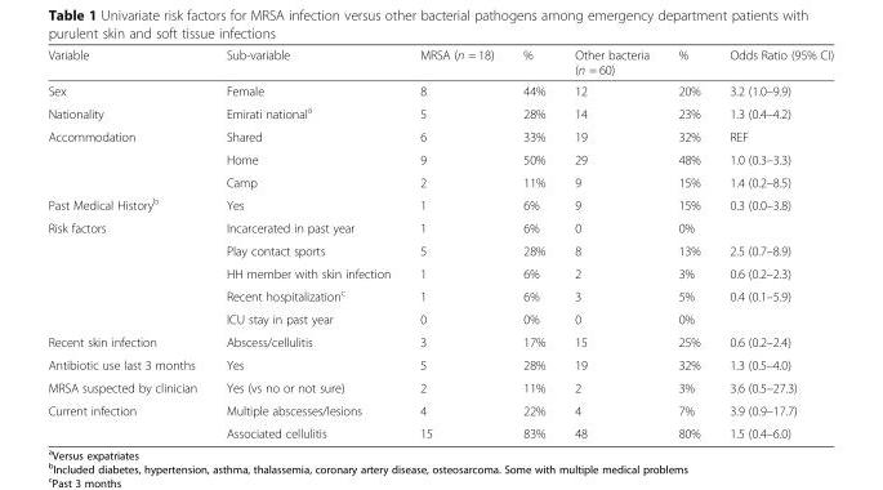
<table><thead><tr><td>Variable</td><td>Sub-variable</td><td>MRSA (n = 18)</td><td>%</td><td>Other bacteria (n = 60)</td><td>%</td><td>Odds Ratio (95% CI)</td></tr></thead><tbody><tr><td>Sex</td><td>Female</td><td>8</td><td>44%</td><td>12</td><td>20%</td><td>3.2 (1.0–9.9)</td></tr><tr><td>Nationality</td><td>Emirati national<sup>a</sup></td><td>5</td><td>28%</td><td>14</td><td>23%</td><td>1.3 (0.4–4.2)</td></tr><tr><td rowspan="3">Accommodation</td><td>Shared</td><td>6</td><td>33%</td><td>19</td><td>32%</td><td>REF</td></tr><tr><td>Home</td><td>9</td><td>50%</td><td>29</td><td>48%</td><td>1.0 (0.3–3.3)</td></tr><tr><td>Camp</td><td>2</td><td>11%</td><td>9</td><td>15%</td><td>1.4 (0.2–8.5)</td></tr><tr><td>Past Medical History<sup>b</sup></td><td>Yes</td><td>1</td><td>6%</td><td>9</td><td>15%</td><td>0.3 (0.0–3.8)</td></tr><tr><td rowspan="5">Risk factors</td><td>Incarcerated in past year</td><td>1</td><td>6%</td><td>0</td><td>0%</td><td></td></tr><tr><td>Play contact sports</td><td>5</td><td>28%</td><td>8</td><td>13%</td><td>2.5 (0.7–8.9)</td></tr><tr><td>HH member with skin infection</td><td>1</td><td>6%</td><td>2</td><td>3%</td><td>0.6 (0.2–2.3)</td></tr><tr><td>Recent hospitalization<sup>c</sup></td><td>1</td><td>6%</td><td>3</td><td>5%</td><td>0.4 (0.1–5.9)</td></tr><tr><td>ICU stay in past year</td><td>0</td><td>0%</td><td>0</td><td>0%</td><td></td></tr><tr><td>Recent skin infection</td><td>Abscess/cellulitis</td><td>3</td><td>17%</td><td>15</td><td>25%</td><td>0.6 (0.2–2.4)</td></tr><tr><td>Antibiotic use last 3 months</td><td>Yes</td><td>5</td><td>28%</td><td>19</td><td>32%</td><td>1.3 (0.5–4.0)</td></tr><tr><td>MRSA suspected by clinician</td><td>Yes (vs no or not sure)</td><td>2</td><td>11%</td><td>2</td><td>3%</td><td>3.6 (0.5–27.3)</td></tr><tr><td rowspan="2">Current infection</td><td>Multiple abscesses/lesions</td><td>4</td><td>22%</td><td>4</td><td>7%</td><td>3.9 (0.9–17.7)</td></tr><tr><td>Associated cellulitis</td><td>15</td><td>83%</td><td>48</td><td>80%</td><td>1.5 (0.4–6.0)</td></tr></tbody></table>